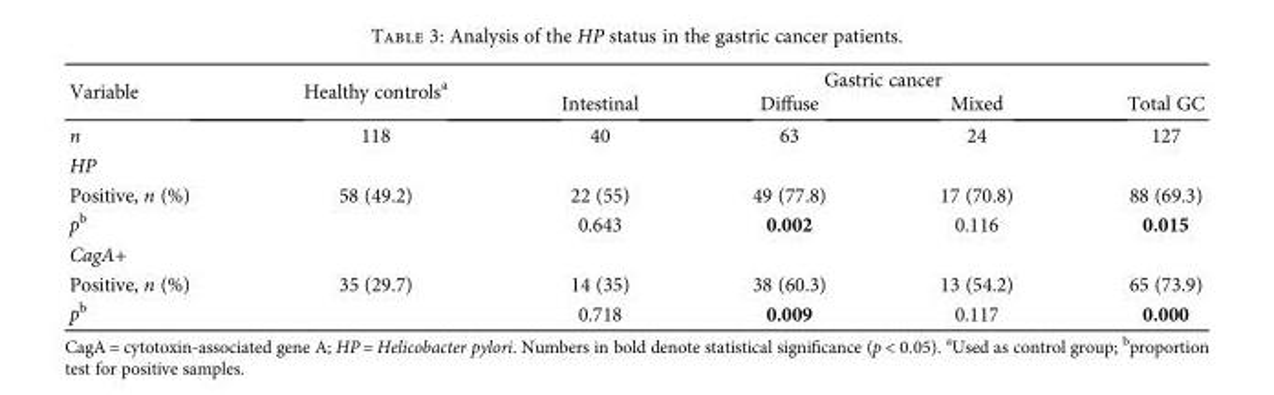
<table><thead><tr><td rowspan="2">Variable</td><td rowspan="2">Healthy controls<sup>a</sup></td><td colspan="4">Gastric cancer</td></tr><tr><td>Intestinal</td><td>Diffuse</td><td>Mixed</td><td>Total GC</td></tr></thead><tbody><tr><td>n</td><td>118</td><td>40</td><td>63</td><td>24</td><td>127</td></tr><tr><td colspan="6">HP</td></tr><tr><td>Positive, n (%)</td><td>58 (49.2)</td><td>22 (55)</td><td>49 (77.8)</td><td>17 (70.8)</td><td>88 (69.3)</td></tr><tr><td>p<sup>b</sup></td><td></td><td>0.643</td><td>0.002</td><td>0.116</td><td>0.015</td></tr><tr><td colspan="6">CagA+</td></tr><tr><td>Positive, n (%)</td><td>35 (29.7)</td><td>14 (35)</td><td>38 (60.3)</td><td>13 (54.2)</td><td>65 (73.9)</td></tr><tr><td>p<sup>b</sup></td><td></td><td>0.718</td><td>0.009</td><td>0.117</td><td>0.000</td></tr></tbody></table>